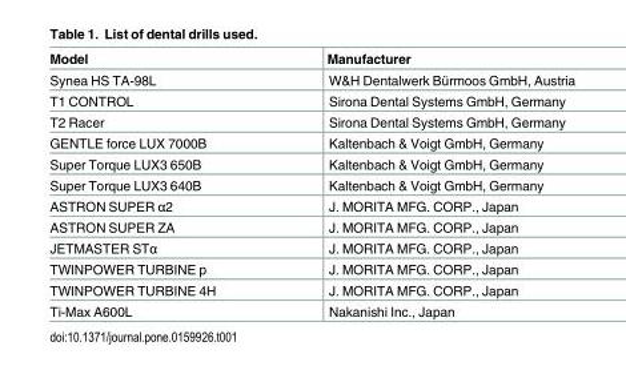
<table><thead><tr><td>Model</td><td>Manufacturer</td></tr></thead><tbody><tr><td>Synea HS TA-98L</td><td>W&amp;H Dentalwerk Bürmoos GmbH, Austria</td></tr><tr><td>T1 CONTROL</td><td>Sirona Dental Systems GmbH, Germany</td></tr><tr><td>T2 Racer</td><td>Sirona Dental Systems GmbH, Germany</td></tr><tr><td>GENTLE force LUX 7000B</td><td>Kaltenbach &amp; Voigt GmbH, Germany</td></tr><tr><td>Super Torque LUX3 650B</td><td>Kaltenbach &amp; Voigt GmbH, Germany</td></tr><tr><td>Super Torque LUX3 640B</td><td>Kaltenbach &amp; Voigt GmbH, Germany</td></tr><tr><td>ASTRON SUPER α2</td><td>J. MORITA MFG. CORP., Japan</td></tr><tr><td>ASTRON SUPER ZA</td><td>J. MORITA MFG. CORP., Japan</td></tr><tr><td>JETMASTER STα</td><td>J. MORITA MFG. CORP., Japan</td></tr><tr><td>TWINPOWER TURBINE p</td><td>J. MORITA MFG. CORP., Japan</td></tr><tr><td>TWINPOWER TURBINE 4H</td><td>J. MORITA MFG. CORP., Japan</td></tr><tr><td>Ti-Max A600L</td><td>Nakanishi Inc., Japan</td></tr></tbody></table>